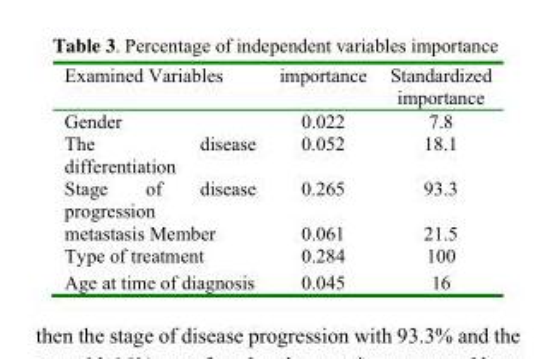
<table><thead><tr><td>Examined Variables</td><td>importance</td><td>Standardized importance</td></tr></thead><tbody><tr><td>Gender</td><td>0.022</td><td>7.8</td></tr><tr><td>The disease differentiation</td><td>0.052</td><td>18.1</td></tr><tr><td>Stage of disease progression</td><td>0.265</td><td>93.3</td></tr><tr><td>metastasis Member</td><td>0.061</td><td>21.5</td></tr><tr><td>Type of treatment</td><td>0.284</td><td>100</td></tr><tr><td>Age at time of diagnosis</td><td>0.045</td><td>16</td></tr></tbody></table>